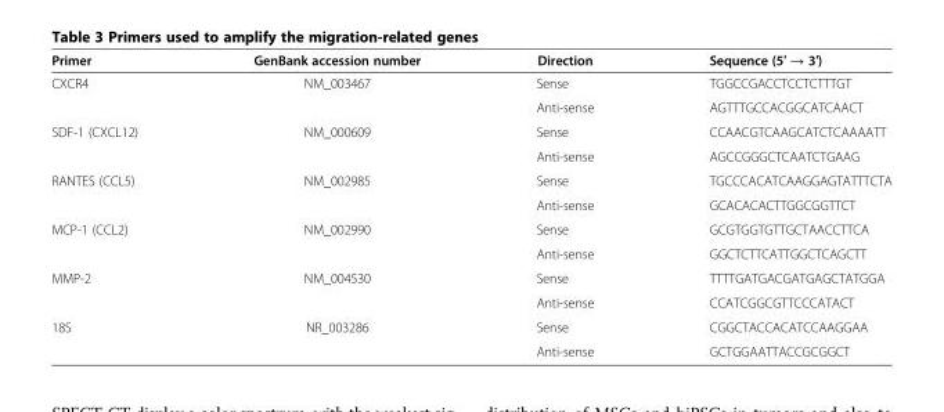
<table><thead><tr><td>Primer</td><td>GenBank accession number</td><td>Direction</td><td>Sequence (5′ → 3′)</td></tr></thead><tbody><tr><td rowspan="2">CXCR4</td><td rowspan="2">NM_003467</td><td>Sense</td><td>TGGCCGACCTCCTCTTTGT</td></tr><tr><td>Anti-sense</td><td>AGTTTGCCACGGCATCAACT</td></tr><tr><td rowspan="2">SDF-1 (CXCL12)</td><td rowspan="2">NM_000609</td><td>Sense</td><td>CCAACGTCAAGCATCTCAAAATT</td></tr><tr><td>Anti-sense</td><td>AGCCGGGCTCAATCTGAAG</td></tr><tr><td rowspan="2">RANTES (CCL5)</td><td rowspan="2">NM_002985</td><td>Sense</td><td>TGCCCACATCAAGGAGTATTTCTA</td></tr><tr><td>Anti-sense</td><td>GCACACACTTGGCGGTTCT</td></tr><tr><td rowspan="2">MCP-1 (CCL2)</td><td rowspan="2">NM_002990</td><td>Sense</td><td>GCGTGGTGTTGCTAACCTTCA</td></tr><tr><td>Anti-sense</td><td>GGCTCTTCATTGGCTCAGCTT</td></tr><tr><td rowspan="2">MMP-2</td><td rowspan="2">NM_004530</td><td>Sense</td><td>TTTTGATGACGATGAGCTATGGA</td></tr><tr><td>Anti-sense</td><td>CCATCGGCGTTCCCATACT</td></tr><tr><td rowspan="2">18S</td><td>NR_003286</td><td>Sense</td><td>CGGCTACCACATCCAAGGAA</td></tr><tr><td></td><td>Anti-sense</td><td>GCTGGAATTACCGCGGCT</td></tr></tbody></table>